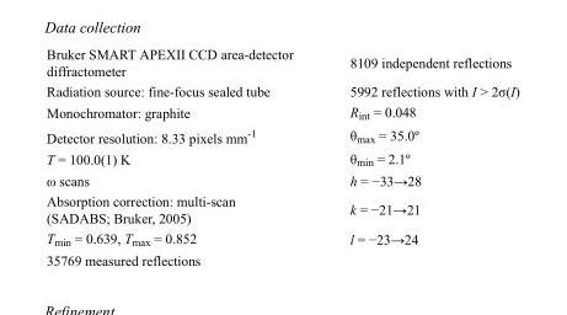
<table><tbody><tr><td>Bruker SMART APEXII CCD area-detector diffractometer</td><td>8109 independent reflections</td></tr><tr><td>Radiation source: fine-focus sealed tube</td><td>5992 reflections with I &gt; 2σ(I)</td></tr><tr><td>Monochromator: graphite</td><td>R<sub>int</sub> = 0.048</td></tr><tr><td>Detector resolution: 8.33 pixels mm<sup>-1</sup></td><td>θ<sub>max</sub> = 35.0º</td></tr><tr><td>T = 100.0(1) K</td><td>θ<sub>min</sub> = 2.1º</td></tr><tr><td>ω scans</td><td>h = −33→28</td></tr><tr><td>Absorption correction: multi-scan (SADABS; Bruker, 2005)</td><td>k = −21→21</td></tr><tr><td>T<sub>min</sub> = 0.639, T<sub>max</sub> = 0.852</td><td>l = −23→24</td></tr><tr><td>35769 measured reflections</td><td></td></tr></tbody></table>